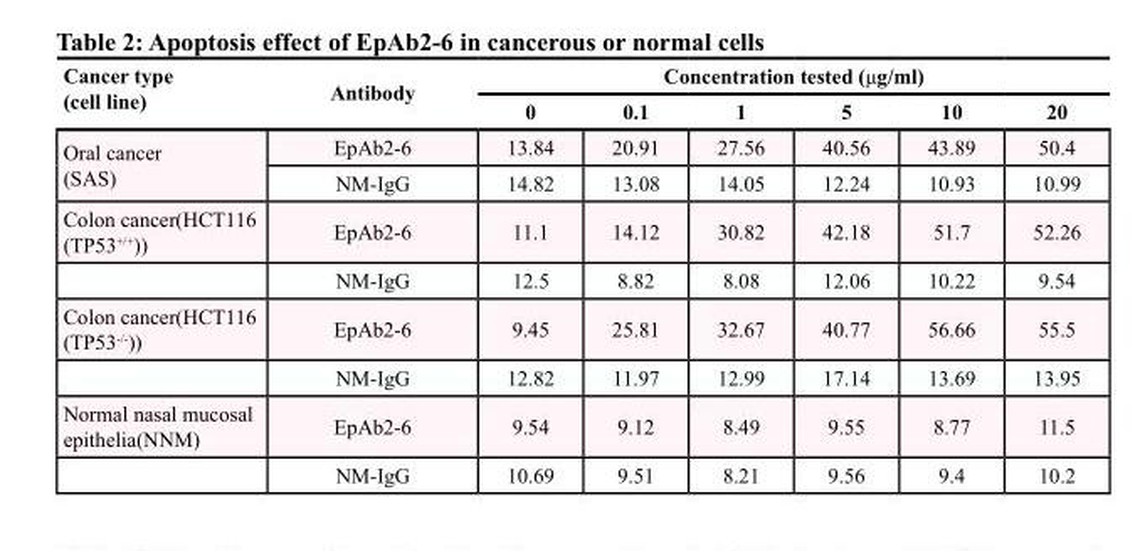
<table><thead><tr><td rowspan="2">Cancer type (cell line)</td><td rowspan="2">Antibody</td><td colspan="6">Concentration tested (μg/ml)</td></tr><tr><td>0</td><td>0.1</td><td>1</td><td>5</td><td>10</td><td>20</td></tr></thead><tbody><tr><td rowspan="2">Oral cancer (SAS)</td><td>EpAb2-6</td><td>13.84</td><td>20.91</td><td>27.56</td><td>40.56</td><td>43.89</td><td>50.4</td></tr><tr><td>NM-IgG</td><td>14.82</td><td>13.08</td><td>14.05</td><td>12.24</td><td>10.93</td><td>10.99</td></tr><tr><td rowspan="2">Colon cancer(HCT116 (TP53<sup>+/+</sup>))</td><td>EpAb2-6</td><td>11.1</td><td>14.12</td><td>30.82</td><td>42.18</td><td>51.7</td><td>52.26</td></tr><tr><td>NM-IgG</td><td>12.5</td><td>8.82</td><td>8.08</td><td>12.06</td><td>10.22</td><td>9.54</td></tr><tr><td rowspan="2">Colon cancer(HCT116 (TP53<sup>-/-</sup>))</td><td>EpAb2-6</td><td>9.45</td><td>25.81</td><td>32.67</td><td>40.77</td><td>56.66</td><td>55.5</td></tr><tr><td>NM-IgG</td><td>12.82</td><td>11.97</td><td>12.99</td><td>17.14</td><td>13.69</td><td>13.95</td></tr><tr><td rowspan="2">Normal nasal mucosal epithelia(NNM)</td><td>EpAb2-6</td><td>9.54</td><td>9.12</td><td>8.49</td><td>9.55</td><td>8.77</td><td>11.5</td></tr><tr><td>NM-IgG</td><td>10.69</td><td>9.51</td><td>8.21</td><td>9.56</td><td>9.4</td><td>10.2</td></tr></tbody></table>